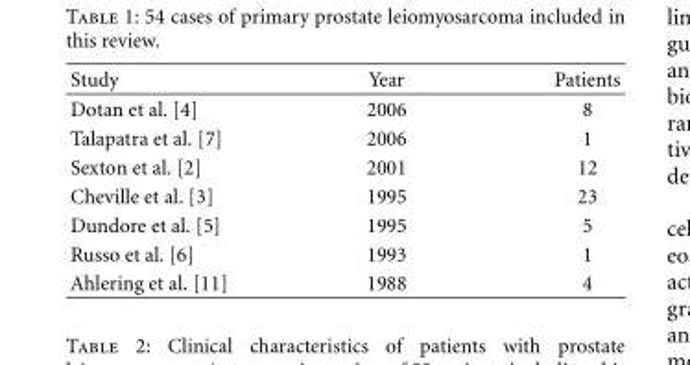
<table><thead><tr><td>Study</td><td>Year</td><td>Patients</td></tr></thead><tbody><tr><td>Dotan et al. [4]</td><td>2006</td><td>8</td></tr><tr><td>Talapatra et al. [7]</td><td>2006</td><td>1</td></tr><tr><td>Sexton et al. [2]</td><td>2001</td><td>12</td></tr><tr><td>Cheville et al. [3]</td><td>1995</td><td>23</td></tr><tr><td>Dundore et al. [5]</td><td>1995</td><td>5</td></tr><tr><td>Russo et al. [6]</td><td>1993</td><td>1</td></tr><tr><td>Ahlering et al. [11]</td><td>1988</td><td>4</td></tr></tbody></table>